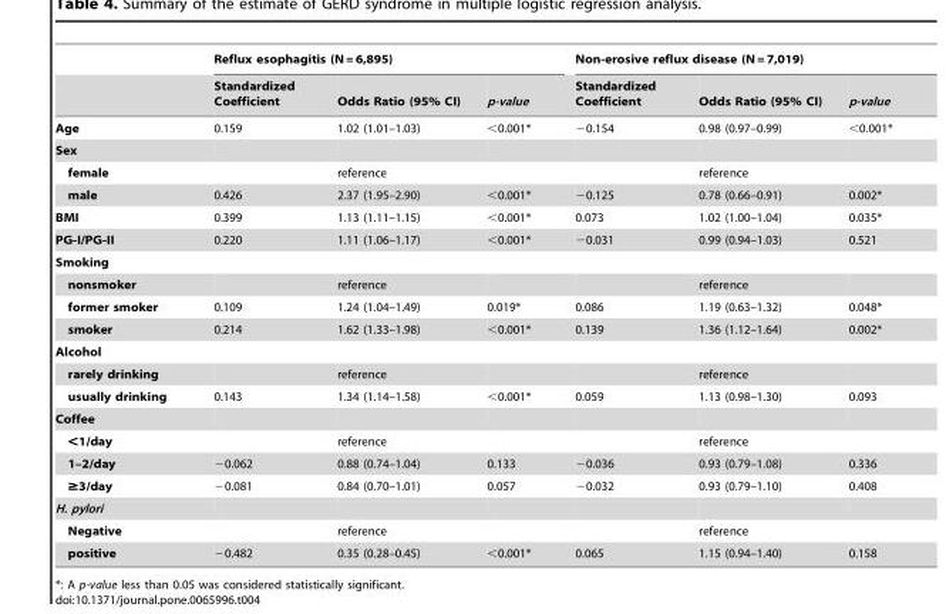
<table><thead><tr><td rowspan="2"></td><td colspan="3">Reflux esophagitis (N = 6,895)</td><td colspan="3">Non-erosive reflux disease (N = 7,019)</td></tr><tr><td>Standardized Coefficient</td><td>Odds Ratio (95% CI)</td><td>p-value</td><td>Standardized Coefficient</td><td>Odds Ratio (95% CI)</td><td>p-value</td></tr></thead><tbody><tr><td>Age</td><td>0.159</td><td>1.02 (1.01–1.03)</td><td>&lt;0.001*</td><td>−0.154</td><td>0.98 (0.97–0.99)</td><td>&lt;0.001*</td></tr><tr><td colspan="7">Sex</td></tr><tr><td>female</td><td></td><td>reference</td><td></td><td></td><td>reference</td><td></td></tr><tr><td>male</td><td>0.426</td><td>2.37 (1.95–2.90)</td><td>&lt;0.001*</td><td>−0.125</td><td>0.78 (0.66–0.91)</td><td>0.002*</td></tr><tr><td>BMI</td><td>0.399</td><td>1.13 (1.11–1.15)</td><td>&lt;0.001*</td><td>0.073</td><td>1.02 (1.00–1.04)</td><td>0.035*</td></tr><tr><td>PG-I/PG-II</td><td>0.220</td><td>1.11 (1.06–1.17)</td><td>&lt;0.001*</td><td>−0.031</td><td>0.99 (0.94–1.03)</td><td>0.521</td></tr><tr><td colspan="7">Smoking</td></tr><tr><td>nonsmoker</td><td></td><td>reference</td><td></td><td></td><td>reference</td><td></td></tr><tr><td>former smoker</td><td>0.109</td><td>1.24 (1.04–1.49)</td><td>0.019*</td><td>0.086</td><td>1.19 (0.63–1.32)</td><td>0.048*</td></tr><tr><td>smoker</td><td>0.214</td><td>1.62 (1.33–1.98)</td><td>&lt;0.001*</td><td>0.139</td><td>1.36 (1.12–1.64)</td><td>0.002*</td></tr><tr><td colspan="7">Alcohol</td></tr><tr><td>rarely drinking</td><td></td><td>reference</td><td></td><td></td><td>reference</td><td></td></tr><tr><td>usually drinking</td><td>0.143</td><td>1.34 (1.14–1.58)</td><td>&lt;0.001*</td><td>0.059</td><td>1.13 (0.98–1.30)</td><td>0.093</td></tr><tr><td colspan="7">Coffee</td></tr><tr><td>&lt;1/day</td><td></td><td>reference</td><td></td><td></td><td>reference</td><td></td></tr><tr><td>1–2/day</td><td>−0.062</td><td>0.88 (0.74–1.04)</td><td>0.133</td><td>−0.036</td><td>0.93 (0.79–1.08)</td><td>0.336</td></tr><tr><td>≥3/day</td><td>−0.081</td><td>0.84 (0.70–1.01)</td><td>0.057</td><td>−0.032</td><td>0.93 (0.79–1.10)</td><td>0.408</td></tr><tr><td colspan="7">H. pylori</td></tr><tr><td>Negative</td><td></td><td>reference</td><td></td><td></td><td>reference</td><td></td></tr><tr><td>positive</td><td>−0.482</td><td>0.35 (0.28–0.45)</td><td>&lt;0.001*</td><td>0.065</td><td>1.15 (0.94–1.40)</td><td>0.158</td></tr></tbody></table>